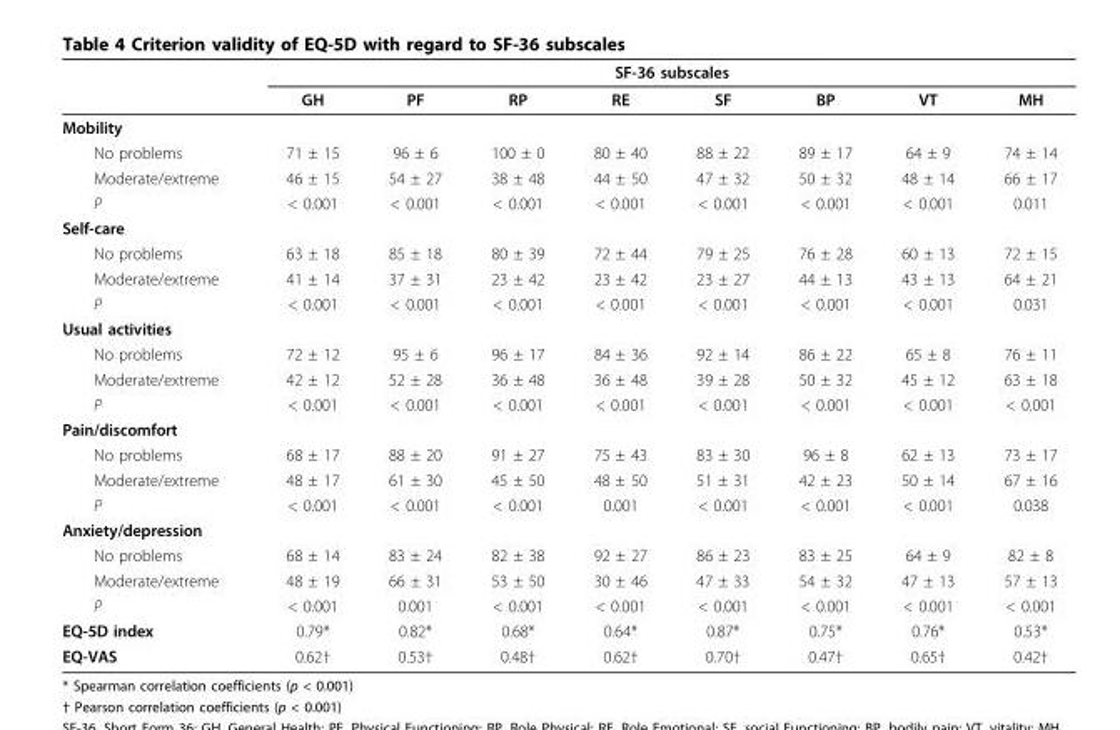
<table><thead><tr><td rowspan="2"></td><td colspan="8">SF-36 subscales</td></tr><tr><td>GH</td><td>PF</td><td>RP</td><td>RE</td><td>SF</td><td>BP</td><td>VT</td><td>MH</td></tr></thead><tbody><tr><td colspan="9">Mobility</td></tr><tr><td>No problems</td><td>71 ± 15</td><td>96 ± 6</td><td>100 ± 0</td><td>80 ± 40</td><td>88 ± 22</td><td>89 ± 17</td><td>64 ± 9</td><td>74 ± 14</td></tr><tr><td>Moderate/extreme</td><td>46 ± 15</td><td>54 ± 27</td><td>38 ± 48</td><td>44 ± 50</td><td>47 ± 32</td><td>50 ± 32</td><td>48 ± 14</td><td>66 ± 17</td></tr><tr><td>P</td><td>&lt; 0.001</td><td>&lt; 0.001</td><td>&lt; 0.001</td><td>&lt; 0.001</td><td>&lt; 0.001</td><td>&lt; 0.001</td><td>&lt; 0.001</td><td>0.011</td></tr><tr><td colspan="9">Self-care</td></tr><tr><td>No problems</td><td>63 ± 18</td><td>85 ± 18</td><td>80 ± 39</td><td>72 ± 44</td><td>79 ± 25</td><td>76 ± 28</td><td>60 ± 13</td><td>72 ± 15</td></tr><tr><td>Moderate/extreme</td><td>41 ± 14</td><td>37 ± 31</td><td>23 ± 42</td><td>23 ± 42</td><td>23 ± 27</td><td>44 ± 13</td><td>43 ± 13</td><td>64 ± 21</td></tr><tr><td>P</td><td>&lt; 0.001</td><td>&lt; 0.001</td><td>&lt; 0.001</td><td>&lt; 0.001</td><td>&lt; 0.001</td><td>&lt; 0.001</td><td>&lt; 0.001</td><td>0.031</td></tr><tr><td colspan="9">Usual activities</td></tr><tr><td>No problems</td><td>72 ± 12</td><td>95 ± 6</td><td>96 ± 17</td><td>84 ± 36</td><td>92 ± 14</td><td>86 ± 22</td><td>65 ± 8</td><td>76 ± 11</td></tr><tr><td>Moderate/extreme</td><td>42 ± 12</td><td>52 ± 28</td><td>36 ± 48</td><td>36 ± 48</td><td>39 ± 28</td><td>50 ± 32</td><td>45 ± 12</td><td>63 ± 18</td></tr><tr><td>P</td><td>&lt; 0.001</td><td>&lt; 0.001</td><td>&lt; 0.001</td><td>&lt; 0.001</td><td>&lt; 0.001</td><td>&lt; 0.001</td><td>&lt; 0.001</td><td>&lt; 0.001</td></tr><tr><td colspan="9">Pain/discomfort</td></tr><tr><td>No problems</td><td>68 ± 17</td><td>88 ± 20</td><td>91 ± 27</td><td>75 ± 43</td><td>83 ± 30</td><td>96 ± 8</td><td>62 ± 13</td><td>73 ± 17</td></tr><tr><td>Moderate/extreme</td><td>48 ± 17</td><td>61 ± 30</td><td>45 ± 50</td><td>48 ± 50</td><td>51 ± 31</td><td>42 ± 23</td><td>50 ± 14</td><td>67 ± 16</td></tr><tr><td>P</td><td>&lt; 0.001</td><td>&lt; 0.001</td><td>&lt; 0.001</td><td>0.001</td><td>&lt; 0.001</td><td>&lt; 0.001</td><td>&lt; 0.001</td><td>0.038</td></tr><tr><td colspan="9">Anxiety/depression</td></tr><tr><td>No problems</td><td>68 ± 14</td><td>83 ± 24</td><td>82 ± 38</td><td>92 ± 27</td><td>86 ± 23</td><td>83 ± 25</td><td>64 ± 9</td><td>82 ± 8</td></tr><tr><td>Moderate/extreme</td><td>48 ± 19</td><td>66 ± 31</td><td>53 ± 50</td><td>30 ± 46</td><td>47 ± 33</td><td>54 ± 32</td><td>47 ± 13</td><td>57 ± 13</td></tr><tr><td>P</td><td>&lt; 0.001</td><td>0.001</td><td>&lt; 0.001</td><td>&lt; 0.001</td><td>&lt; 0.001</td><td>&lt; 0.001</td><td>&lt; 0.001</td><td>&lt; 0.001</td></tr><tr><td>EQ-5D index</td><td>0.79*</td><td>0.82*</td><td>0.68*</td><td>0.64*</td><td>0.87*</td><td>0.75*</td><td>0.76*</td><td>0.53*</td></tr><tr><td>EQ-VAS</td><td>0.62†</td><td>0.53†</td><td>0.48†</td><td>0.62†</td><td>0.70†</td><td>0.47†</td><td>0.65†</td><td>0.42†</td></tr></tbody></table>